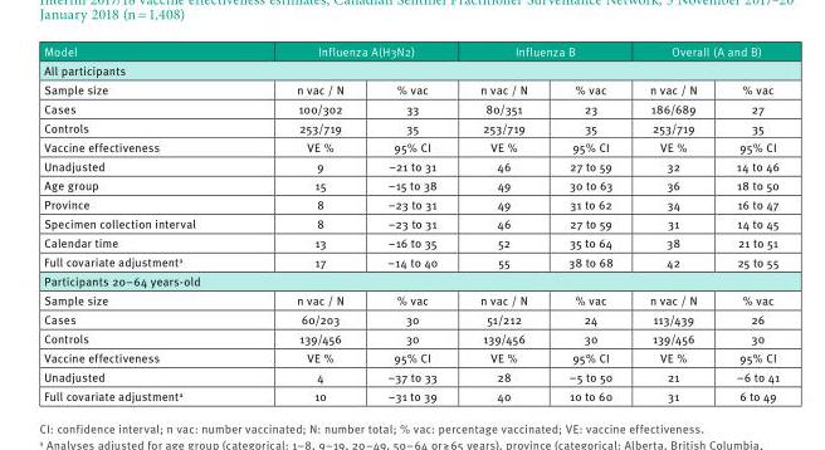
<table><thead><tr><td>Model</td><td colspan="2">Influenza A(H3N2)</td><td colspan="2">Influenza B</td><td colspan="2">Overall (A and B)</td></tr><tr><td colspan="7">All participants</td></tr><tr><td>Sample size</td><td>n vac / N</td><td>% vac</td><td>n vac / N</td><td>% vac</td><td>n vac / N</td><td>% vac</td></tr></thead><tbody><tr><td>Cases</td><td>100/302</td><td>33</td><td>80/351</td><td>23</td><td>186/689</td><td>27</td></tr><tr><td>Controls</td><td>253/719</td><td>35</td><td>253/719</td><td>35</td><td>253/719</td><td>35</td></tr><tr><td>Vaccine effectiveness</td><td>VE %</td><td>95% CI</td><td>VE %</td><td>95% CI</td><td>VE %</td><td>95% CI</td></tr><tr><td>Unadjusted</td><td>9</td><td>−21 to 31</td><td>46</td><td>27 to 59</td><td>32</td><td>14 to 46</td></tr><tr><td>Age group</td><td>15</td><td>−15 to 38</td><td>49</td><td>30 to 63</td><td>36</td><td>18 to 50</td></tr><tr><td>Province</td><td>8</td><td>−23 to 31</td><td>49</td><td>31 to 62</td><td>34</td><td>16 to 47</td></tr><tr><td>Specimen collection interval</td><td>8</td><td>−23 to 31</td><td>46</td><td>27 to 59</td><td>31</td><td>14 to 45</td></tr><tr><td>Calendar time</td><td>13</td><td>−16 to 35</td><td>52</td><td>35 to 64</td><td>38</td><td>21 to 51</td></tr><tr><td>Full covariate adjustment<sup>a</sup></td><td>17</td><td>−14 to 40</td><td>55</td><td>38 to 68</td><td>42</td><td>25 to 55</td></tr><tr><td colspan="7">Participants 20–64 years-old</td></tr><tr><td>Sample size</td><td>n vac / N</td><td>% vac</td><td>n vac / N</td><td>% vac</td><td>n vac / N</td><td>% vac</td></tr><tr><td>Cases</td><td>60/203</td><td>30</td><td>51/212</td><td>24</td><td>113/439</td><td>26</td></tr><tr><td>Controls</td><td>139/456</td><td>30</td><td>139/456</td><td>30</td><td>139/456</td><td>30</td></tr><tr><td>Vaccine effectiveness</td><td>VE %</td><td>95% CI</td><td>VE %</td><td>95% CI</td><td>VE %</td><td>95% CI</td></tr><tr><td>Unadjusted</td><td>4</td><td>−37 to 33</td><td>28</td><td>−5 to 50</td><td>21</td><td>−6 to 41</td></tr><tr><td>Full covariate adjustment<sup>a</sup></td><td>10</td><td>−31 to 39</td><td>40</td><td>10 to 60</td><td>31</td><td>6 to 49</td></tr></tbody></table>